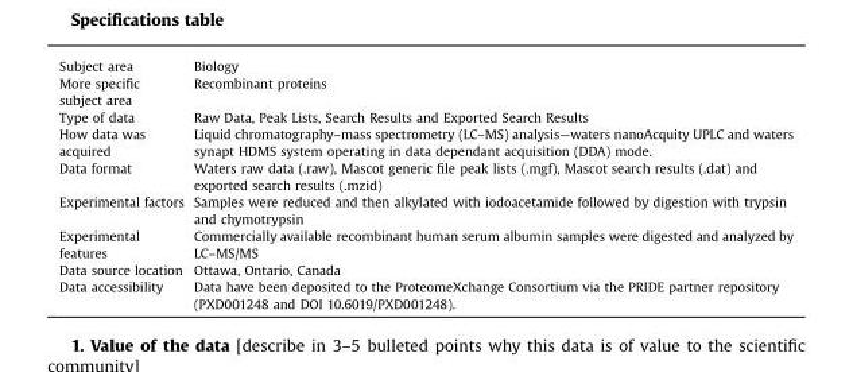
<table><tbody><tr><td>Subject area</td><td>Biology</td></tr><tr><td>More specific subject area</td><td>Recombinant proteins</td></tr><tr><td>Type of data</td><td>Raw Data, Peak Lists, Search Results and Exported Search Results</td></tr><tr><td>How data was acquired</td><td>Liquid chromatography–mass spectrometry (LC–MS) analysis—waters nanoAcquity UPLC and waters synapt HDMS system operating in data dependant acquisition (DDA) mode.</td></tr><tr><td>Data format</td><td>Waters raw data (.raw), Mascot generic file peak lists (.mgf), Mascot search results (.dat) and exported search results (.mzid)</td></tr><tr><td>Experimental factors</td><td>Samples were reduced and then alkylated with iodoacetamide followed by digestion with trypsin and chymotrypsin</td></tr><tr><td>Experimental features</td><td>Commercially available recombinant human serum albumin samples were digested and analyzed by LC–MS/MS</td></tr><tr><td>Data source location</td><td>Ottawa, Ontario, Canada</td></tr><tr><td>Data accessibility</td><td>Data have been deposited to the ProteomeXchange Consortium via the PRIDE partner repository (PXD001248 and DOI 10.6019/PXD001248).</td></tr></tbody></table>